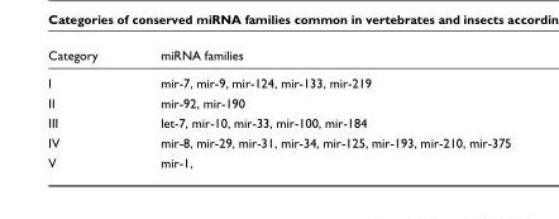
<table><thead><tr><td>Category</td><td>miRNA families</td></tr></thead><tbody><tr><td>I</td><td>mir-7, mir-9, mir-124, mir-133, mir-219</td></tr><tr><td>II</td><td>mir-92, mir-190</td></tr><tr><td>III</td><td>let-7, mir-10, mir-33, mir-100, mir-184</td></tr><tr><td>IV</td><td>mir-8, mir-29, mir-31, mir-34, mir-125, mir-193, mir-210, mir-375</td></tr><tr><td>V</td><td>mir-1,</td></tr></tbody></table>